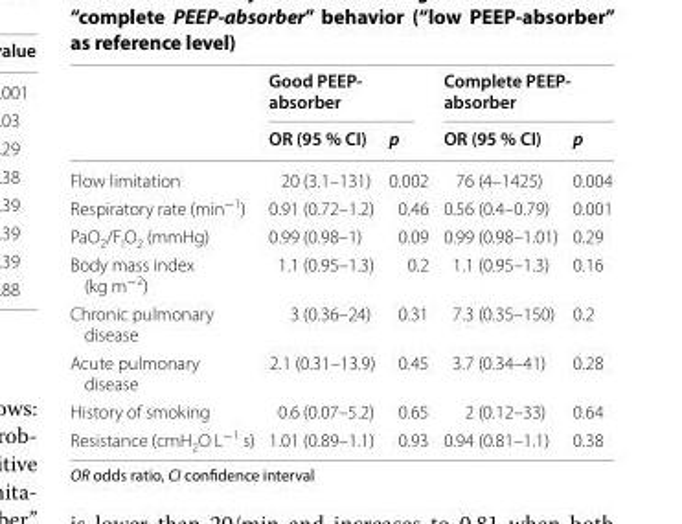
<table><thead><tr><td rowspan="2"></td><td colspan="2">Good PEEP- absorber</td><td colspan="2">Complete PEEP- absorber</td></tr><tr><td>OR (95 % CI)</td><td>p</td><td>OR (95 % CI)</td><td>p</td></tr></thead><tbody><tr><td>Flow limitation</td><td>20 (3.1–131)</td><td>0.002</td><td>76 (4–1425)</td><td>0.004</td></tr><tr><td>Respiratory rate (min<sup>−1</sup>)</td><td>0.91 (0.72–1.2)</td><td>0.46</td><td>0.56 (0.4–0.79)</td><td>0.001</td></tr><tr><td>PaO<sub>2</sub>/F<sub>I</sub>O<sub>2</sub> (mmHg)</td><td>0.99 (0.98–1)</td><td>0.09</td><td>0.99 (0.98–1.01)</td><td>0.29</td></tr><tr><td>Body mass index (kg m<sup>−2</sup>)</td><td>1.1 (0.95–1.3)</td><td>0.2</td><td>1.1 (0.95–1.3)</td><td>0.16</td></tr><tr><td>Chronic pulmonary disease</td><td>3 (0.36–24)</td><td>0.31</td><td>7.3 (0.35–150)</td><td>0.2</td></tr><tr><td>Acute pulmonary disease</td><td>2.1 (0.31–13.9)</td><td>0.45</td><td>3.7 (0.34–41)</td><td>0.28</td></tr><tr><td>History of smoking</td><td>0.6 (0.07–5.2)</td><td>0.65</td><td>2 (0.12–33)</td><td>0.64</td></tr><tr><td>Resistance (cmH<sub>2</sub>O L<sup>−1</sup> s)</td><td>1.01 (0.89–1.1)</td><td>0.93</td><td>0.94 (0.81–1.1)</td><td>0.38</td></tr></tbody></table>